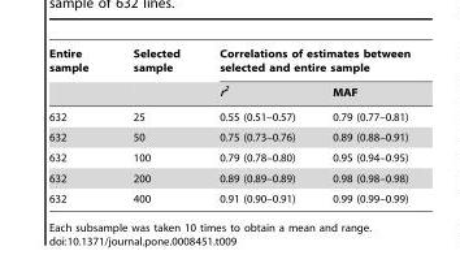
<table><thead><tr><td rowspan="2">Entire sample</td><td rowspan="2">Selected sample</td><td colspan="2">Correlations of estimates between selected and entire sample</td></tr><tr><td>r<sup>2</sup></td><td>MAF</td></tr></thead><tbody><tr><td>632</td><td>25</td><td>0.55 (0.51–0.57)</td><td>0.79 (0.77–0.81)</td></tr><tr><td>632</td><td>50</td><td>0.75 (0.73–0.76)</td><td>0.89 (0.88–0.91)</td></tr><tr><td>632</td><td>100</td><td>0.79 (0.78–0.80)</td><td>0.95 (0.94–0.95)</td></tr><tr><td>632</td><td>200</td><td>0.89 (0.89–0.89)</td><td>0.98 (0.98–0.98)</td></tr><tr><td>632</td><td>400</td><td>0.91 (0.90–0.91)</td><td>0.99 (0.99–0.99)</td></tr></tbody></table>